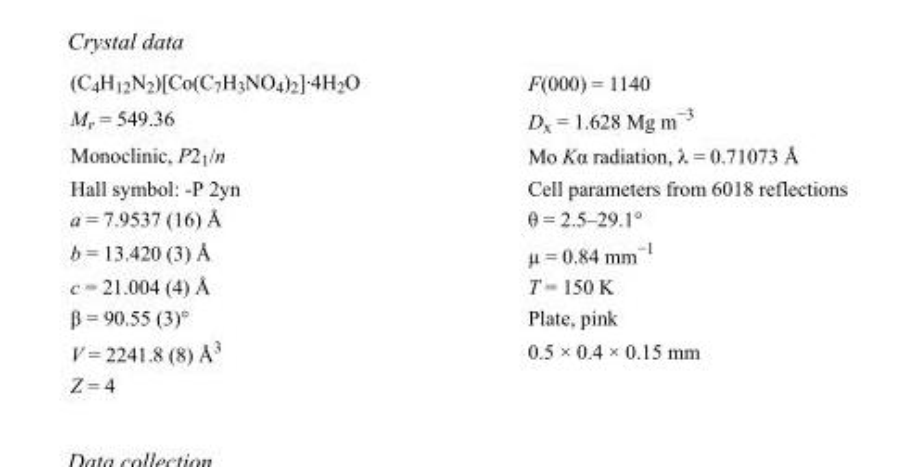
<table><tbody><tr><td>(C<sub>4</sub>H<sub>12</sub>N<sub>2</sub>)[Co(C<sub>7</sub>H<sub>3</sub>NO<sub>4</sub>)<sub>2</sub>]·4H<sub>2</sub>O</td><td>F(000) = 1140</td></tr><tr><td>M<sub>r</sub> = 549.36</td><td>D<sub>x</sub> = 1.628 Mg m<sup>−3</sup></td></tr><tr><td>Monoclinic, P2<sub>1</sub>/n</td><td>Mo Kα radiation, λ = 0.71073 Å</td></tr><tr><td>Hall symbol: -P 2yn</td><td>Cell parameters from 6018 reflections</td></tr><tr><td>a = 7.9537 (16) Å</td><td>θ = 2.5–29.1°</td></tr><tr><td>b = 13.420 (3) Å</td><td>µ = 0.84 mm<sup>−1</sup></td></tr><tr><td>c = 21.004 (4) Å</td><td>T = 150 K</td></tr><tr><td>β = 90.55 (3)°</td><td>Plate, pink</td></tr><tr><td>V = 2241.8 (8) Å<sup>3</sup></td><td>0.5 × 0.4 × 0.15 mm</td></tr><tr><td>Z = 4</td><td></td></tr></tbody></table>